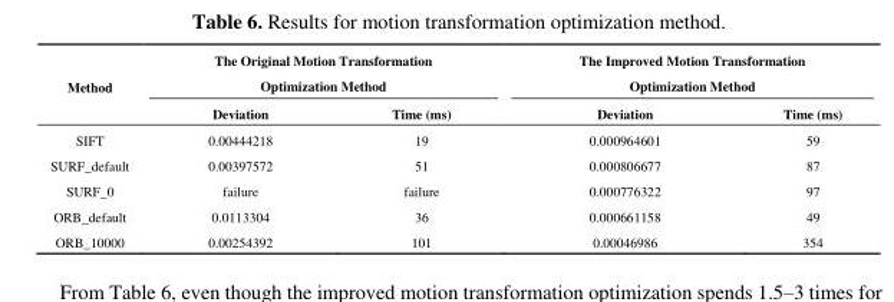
<table><thead><tr><td rowspan="2">Method</td><td colspan="2">The Original Motion Transformation Optimization Method</td><td colspan="2">The Improved Motion Transformation Optimization Method</td></tr><tr><td>Deviation</td><td>Time (ms)</td><td>Deviation</td><td>Time (ms)</td></tr></thead><tbody><tr><td>SIFT</td><td>0.00444218</td><td>19</td><td>0.000964601</td><td>59</td></tr><tr><td>SURF_default</td><td>0.00397572</td><td>51</td><td>0.000806677</td><td>87</td></tr><tr><td>SURF_0</td><td>failure</td><td>failure</td><td>0.000776322</td><td>97</td></tr><tr><td>ORB_default</td><td>0.0113304</td><td>36</td><td>0.000661158</td><td>49</td></tr><tr><td>ORB_10000</td><td>0.00254392</td><td>101</td><td>0.00046986</td><td>354</td></tr></tbody></table>